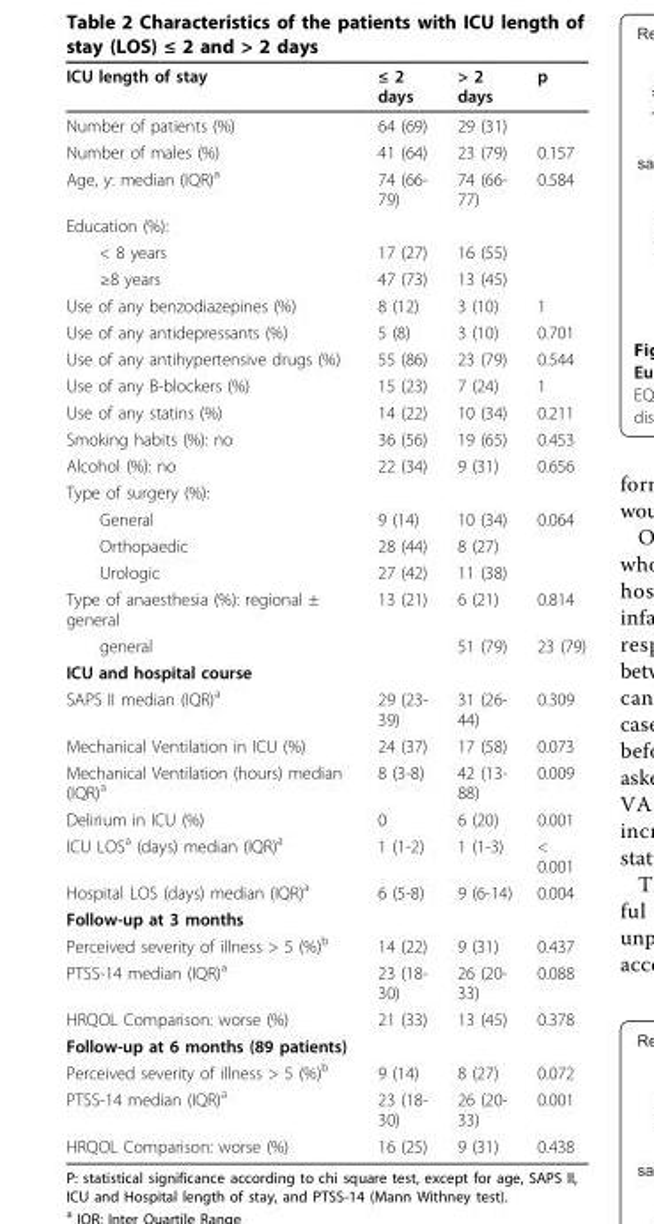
<table><thead><tr><td>ICU length of stay</td><td>≤ 2 days</td><td>&gt; 2 days</td><td>p</td></tr></thead><tbody><tr><td>Number of patients (%)</td><td>64 (69)</td><td>29 (31)</td><td></td></tr><tr><td>Number of males (%)</td><td>41 (64)</td><td>23 (79)</td><td>0.157</td></tr><tr><td>Age, y: median (IQR)<sup>a</sup></td><td>74 (66- 79)</td><td>74 (66- 77)</td><td>0.584</td></tr><tr><td colspan="4">Education (%):</td></tr><tr><td>&lt; 8 years</td><td>17 (27)</td><td>16 (55)</td><td></td></tr><tr><td>≥8 years</td><td>47 (73)</td><td>13 (45)</td><td></td></tr><tr><td>Use of any benzodiazepines (%)</td><td>8 (12)</td><td>3 (10)</td><td>1</td></tr><tr><td>Use of any antidepressants (%)</td><td>5 (8)</td><td>3 (10)</td><td>0.701</td></tr><tr><td>Use of any antihypertensive drugs (%)</td><td>55 (86)</td><td>23 (79)</td><td>0.544</td></tr><tr><td>Use of any B-blockers (%)</td><td>15 (23)</td><td>7 (24)</td><td>1</td></tr><tr><td>Use of any statins (%)</td><td>14 (22)</td><td>10 (34)</td><td>0.211</td></tr><tr><td>Smoking habits (%): no</td><td>36 (56)</td><td>19 (65)</td><td>0.453</td></tr><tr><td>Alcohol (%): no</td><td>22 (34)</td><td>9 (31)</td><td>0.656</td></tr><tr><td colspan="4">Type of surgery (%):</td></tr><tr><td>General</td><td>9 (14)</td><td>10 (34)</td><td>0.064</td></tr><tr><td>Orthopaedic</td><td>28 (44)</td><td>8 (27)</td><td></td></tr><tr><td>Urologic</td><td>27 (42)</td><td>11 (38)</td><td></td></tr><tr><td>Type of anaesthesia (%): regional ± general</td><td>13 (21)</td><td>6 (21)</td><td>0.814</td></tr><tr><td>general</td><td></td><td>51 (79)</td><td>23 (79)</td></tr><tr><td colspan="4">ICU and hospital course</td></tr><tr><td>SAPS II median (IQR)<sup>a</sup></td><td>29 (23- 39)</td><td>31 (26- 44)</td><td>0.309</td></tr><tr><td>Mechanical Ventilation in ICU (%)</td><td>24 (37)</td><td>17 (58)</td><td>0.073</td></tr><tr><td>Mechanical Ventilation (hours) median (IQR)<sup>a</sup></td><td>8 (3-8)</td><td>42 (13- 88)</td><td>0.009</td></tr><tr><td>Delirium in ICU (%)</td><td>0</td><td>6 (20)</td><td>0.001</td></tr><tr><td>ICU LOS<sup>a</sup> (days) median (IQR)<sup>a</sup></td><td>1 (1-2)</td><td>1 (1-3)</td><td>&lt; 0.001</td></tr><tr><td>Hospital LOS (days) median (IQR)<sup>a</sup></td><td>6 (5-8)</td><td>9 (6-14)</td><td>0.004</td></tr><tr><td colspan="4">Follow-up at 3 months</td></tr><tr><td>Perceived severity of illness &gt; 5 (%)<sup>b</sup></td><td>14 (22)</td><td>9 (31)</td><td>0.437</td></tr><tr><td>PTSS-14 median (IQR)<sup>a</sup></td><td>23 (18- 30)</td><td>26 (20- 33)</td><td>0.088</td></tr><tr><td>HRQOL Comparison: worse (%)</td><td>21 (33)</td><td>13 (45)</td><td>0.378</td></tr><tr><td colspan="4">Follow-up at 6 months (89 patients)</td></tr><tr><td>Perceived severity of illness &gt; 5 (%)<sup>b</sup></td><td>9 (14)</td><td>8 (27)</td><td>0.072</td></tr><tr><td>PTSS-14 median (IQR)<sup>a</sup></td><td>23 (18- 30)</td><td>26 (20- 33)</td><td>0.001</td></tr><tr><td>HRQOL Comparison: worse (%)</td><td>16 (25)</td><td>9 (31)</td><td>0.438</td></tr></tbody></table>